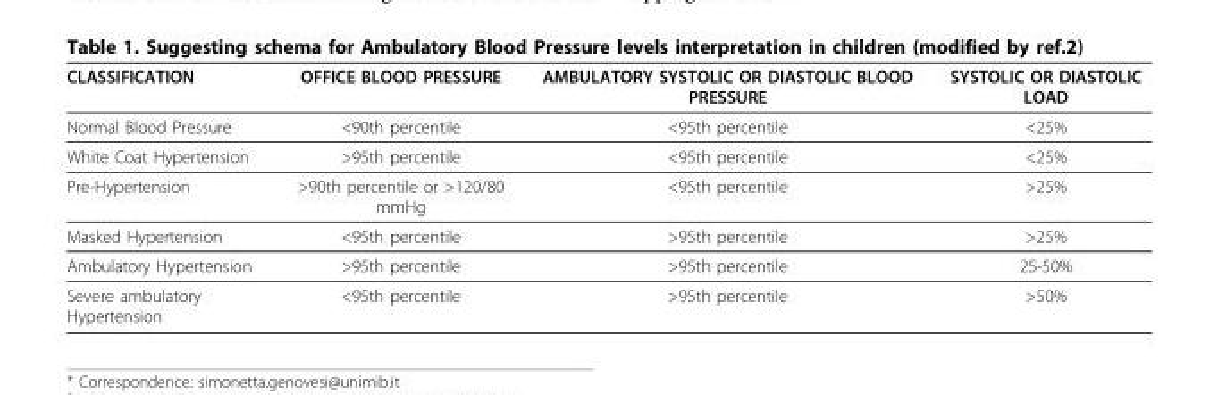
<table><thead><tr><td>CLASSIFICATION</td><td>OFFICE BLOOD PRESSURE</td><td>AMBULATORY SYSTOLIC OR DIASTOLIC BLOOD PRESSURE</td><td>SYSTOLIC OR DIASTOLIC LOAD</td></tr></thead><tbody><tr><td>Normal Blood Pressure</td><td>&lt;90th percentile</td><td>&lt;95th percentile</td><td>&lt;25%</td></tr><tr><td>White Coat Hypertension</td><td>&gt;95th percentile</td><td>&lt;95th percentile</td><td>&lt;25%</td></tr><tr><td>Pre-Hypertension</td><td>&gt;90th percentile or &gt;120/80 mmHg</td><td>&lt;95th percentile</td><td>&gt;25%</td></tr><tr><td>Masked Hypertension</td><td>&lt;95th percentile</td><td>&gt;95th percentile</td><td>&gt;25%</td></tr><tr><td>Ambulatory Hypertension</td><td>&gt;95th percentile</td><td>&gt;95th percentile</td><td>25-50%</td></tr><tr><td>Severe ambulatory Hypertension</td><td>&lt;95th percentile</td><td>&gt;95th percentile</td><td>&gt;50%</td></tr></tbody></table>